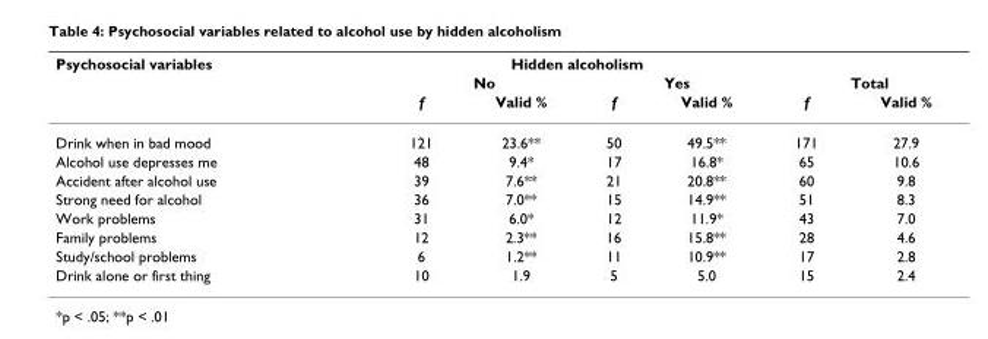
<table><thead><tr><td rowspan="3">Psychosocial variables</td><td colspan="4">Hidden alcoholism</td><td></td><td></td></tr><tr><td colspan="2">No</td><td colspan="2">Yes</td><td colspan="2">Total</td></tr><tr><td>f</td><td>Valid %</td><td>f</td><td>Valid %</td><td>f</td><td>Valid %</td></tr></thead><tbody><tr><td>Drink when in bad mood</td><td>121</td><td>23.6**</td><td>50</td><td>49.5**</td><td>171</td><td>27.9</td></tr><tr><td>Alcohol use depresses me</td><td>48</td><td>9.4*</td><td>17</td><td>16.8*</td><td>65</td><td>10.6</td></tr><tr><td>Accident after alcohol use</td><td>39</td><td>7.6**</td><td>21</td><td>20.8**</td><td>60</td><td>9.8</td></tr><tr><td>Strong need for alcohol</td><td>36</td><td>7.0**</td><td>15</td><td>14.9**</td><td>51</td><td>8.3</td></tr><tr><td>Work problems</td><td>31</td><td>6.0*</td><td>12</td><td>11.9*</td><td>43</td><td>7.0</td></tr><tr><td>Family problems</td><td>12</td><td>2.3**</td><td>16</td><td>15.8**</td><td>28</td><td>4.6</td></tr><tr><td>Study/school problems</td><td>6</td><td>1.2**</td><td>11</td><td>10.9**</td><td>17</td><td>2.8</td></tr><tr><td>Drink alone or first thing</td><td>10</td><td>1.9</td><td>5</td><td>5.0</td><td>15</td><td>2.4</td></tr></tbody></table>